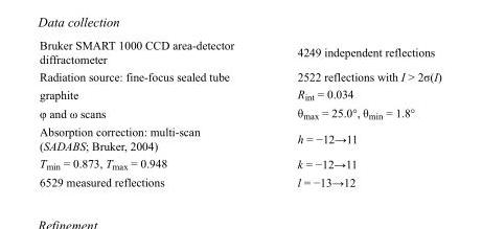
<table><tbody><tr><td>Bruker SMART 1000 CCD area-detector diffractometer</td><td>4249 independent reflections</td></tr><tr><td>Radiation source: fine-focus sealed tube</td><td>2522 reflections with I &gt; 2σ(I)</td></tr><tr><td>graphite</td><td>R<sub>int</sub> = 0.034</td></tr><tr><td>φ and ω scans</td><td>θ<sub>max</sub> = 25.0°, θ<sub>min</sub> = 1.8°</td></tr><tr><td>Absorption correction: multi-scan (SADABS; Bruker, 2004)</td><td>h = −12→11</td></tr><tr><td>T<sub>min</sub> = 0.873, T<sub>max</sub> = 0.948</td><td>k = −12→11</td></tr><tr><td>6529 measured reflections</td><td>l = −13→12</td></tr></tbody></table>